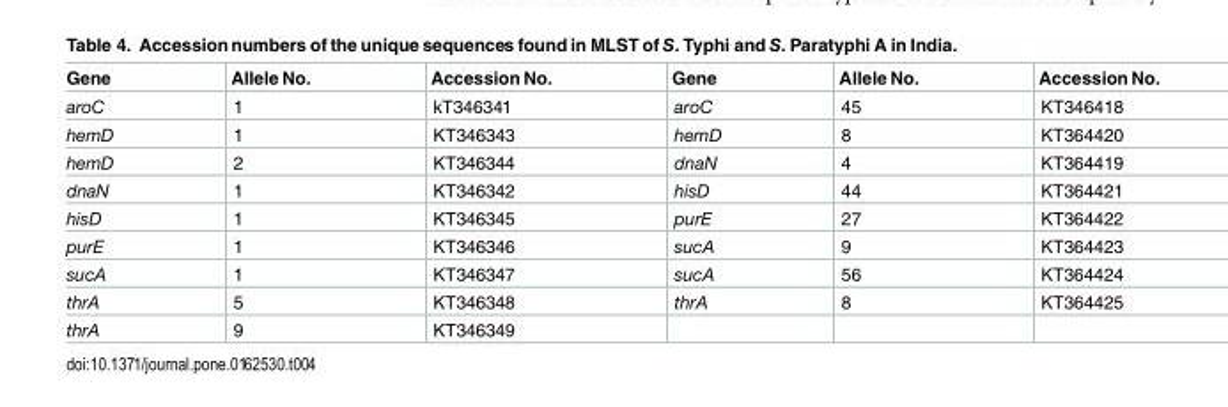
<table><thead><tr><td>Gene</td><td>Allele No.</td><td>Accession No.</td><td>Gene</td><td>Allele No.</td><td>Accession No.</td></tr></thead><tbody><tr><td>aroC</td><td>1</td><td>kT346341</td><td>aroC</td><td>45</td><td>KT346418</td></tr><tr><td>hemD</td><td>1</td><td>KT346343</td><td>hemD</td><td>8</td><td>KT364420</td></tr><tr><td>hemD</td><td>2</td><td>KT346344</td><td>dnaN</td><td>4</td><td>KT364419</td></tr><tr><td>dnaN</td><td>1</td><td>KT346342</td><td>hisD</td><td>44</td><td>KT364421</td></tr><tr><td>hisD</td><td>1</td><td>KT346345</td><td>purE</td><td>27</td><td>KT364422</td></tr><tr><td>purE</td><td>1</td><td>KT346346</td><td>sucA</td><td>9</td><td>KT364423</td></tr><tr><td>sucA</td><td>1</td><td>KT346347</td><td>sucA</td><td>56</td><td>KT364424</td></tr><tr><td>thrA</td><td>5</td><td>KT346348</td><td>thrA</td><td>8</td><td>KT364425</td></tr><tr><td>thrA</td><td>9</td><td>KT346349</td><td></td><td></td><td></td></tr></tbody></table>